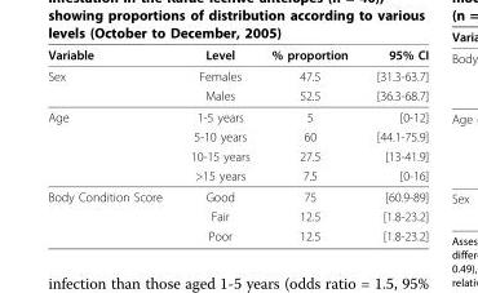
<table><thead><tr><td>Variable</td><td>Level</td><td>% proportion</td><td>95% CI</td></tr></thead><tbody><tr><td rowspan="2">Sex</td><td>Females</td><td>47.5</td><td>[31.3-63.7]</td></tr><tr><td>Males</td><td>52.5</td><td>[36.3-68.7]</td></tr><tr><td rowspan="4">Age</td><td>1-5 years</td><td>5</td><td>[0-12]</td></tr><tr><td>5-10 years</td><td>60</td><td>[44.1-75.9]</td></tr><tr><td>10-15 years</td><td>27.5</td><td>[13-41.9]</td></tr><tr><td>&gt;15 years</td><td>7.5</td><td>[0-16]</td></tr><tr><td rowspan="3">Body Condition Score</td><td>Good</td><td>75</td><td>[60.9-89]</td></tr><tr><td>Fair</td><td>12.5</td><td>[1.8-23.2]</td></tr><tr><td>Poor</td><td>12.5</td><td>[1.8-23.2]</td></tr></tbody></table>